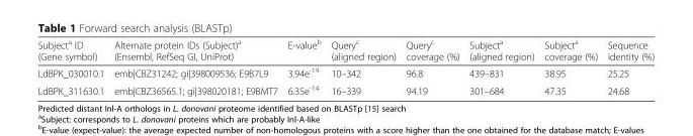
<table><thead><tr><td>Subject<sup>a</sup> ID (Gene symbol)</td><td>Alternate protein IDs (Subject)<sup>a</sup> (Ensembl, RefSeq GI, UniProt)</td><td>E-value<sup>b</sup></td><td>Query<sup>c</sup> (aligned region)</td><td>Query<sup>c</sup> coverage (%)</td><td>Subject<sup>a</sup> (aligned region)</td><td>Subject<sup>a</sup> coverage (%)</td><td>Sequence identity (%)</td></tr></thead><tbody><tr><td>LdBPK_030010.1</td><td>emb|CBZ31242; gi|398009536; E9B7L9</td><td>3.94e<sup>-19</sup></td><td>10–342</td><td>96.8</td><td>439–831</td><td>38.95</td><td>25.25</td></tr><tr><td>LdBPK_311630.1</td><td>emb|CBZ36565.1; gi|398020181; E9BMT7</td><td>6.35e<sup>-14</sup></td><td>16–339</td><td>94.19</td><td>301–684</td><td>47.35</td><td>24.68</td></tr></tbody></table>